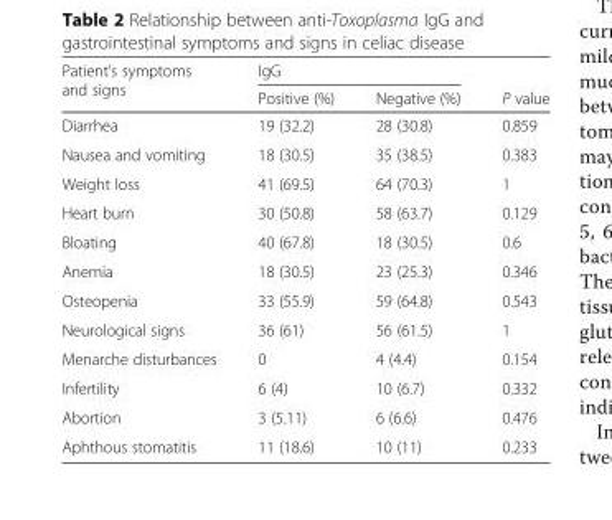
<table><thead><tr><td rowspan="2">Patient’s symptoms and signs</td><td colspan="2">IgG</td><td rowspan="2">P value</td></tr><tr><td>Positive (%)</td><td>Negative (%)</td></tr></thead><tbody><tr><td>Diarrhea</td><td>19 (32.2)</td><td>28 (30.8)</td><td>0.859</td></tr><tr><td>Nausea and vomiting</td><td>18 (30.5)</td><td>35 (38.5)</td><td>0.383</td></tr><tr><td>Weight loss</td><td>41 (69.5)</td><td>64 (70.3)</td><td>1</td></tr><tr><td>Heart burn</td><td>30 (50.8)</td><td>58 (63.7)</td><td>0.129</td></tr><tr><td>Bloating</td><td>40 (67.8)</td><td>18 (30.5)</td><td>0.6</td></tr><tr><td>Anemia</td><td>18 (30.5)</td><td>23 (25.3)</td><td>0.346</td></tr><tr><td>Osteopenia</td><td>33 (55.9)</td><td>59 (64.8)</td><td>0.543</td></tr><tr><td>Neurological signs</td><td>36 (61)</td><td>56 (61.5)</td><td>1</td></tr><tr><td>Menarche disturbances</td><td>0</td><td>4 (4.4)</td><td>0.154</td></tr><tr><td>Infertility</td><td>6 (4)</td><td>10 (6.7)</td><td>0.332</td></tr><tr><td>Abortion</td><td>3 (5.11)</td><td>6 (6.6)</td><td>0.476</td></tr><tr><td>Aphthous stomatitis</td><td>11 (18.6)</td><td>10 (11)</td><td>0.233</td></tr></tbody></table>